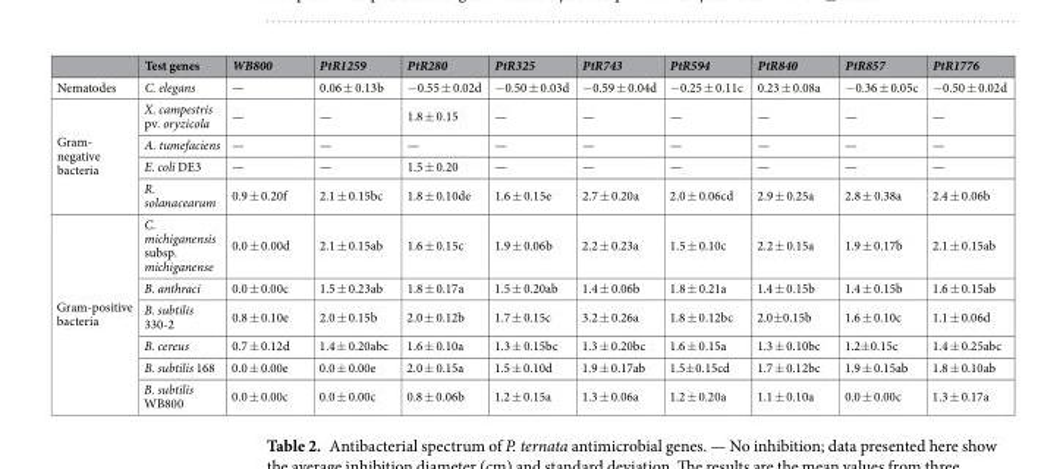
<table><thead><tr><td></td><td>Test genes</td><td>WB800</td><td>PtR1259</td><td>PtR280</td><td>PtR325</td><td>PtR743</td><td>PtR594</td><td>PtR840</td><td>PtR857</td><td>PtR1776</td></tr></thead><tbody><tr><td>Nematodes</td><td>C. elegans</td><td>—</td><td>0.06 ± 0.13b</td><td>−0.55 ± 0.02d</td><td>−0.50 ± 0.03d</td><td>−0.59 ± 0.04d</td><td>−0.25 ± 0.11c</td><td>0.23 ± 0.08a</td><td>−0.36 ± 0.05c</td><td>−0.50 ± 0.02d</td></tr><tr><td rowspan="4">Gram- negative bacteria</td><td>X. campestris pv. oryzicola</td><td>—</td><td>—</td><td>1.8 ± 0.15</td><td>—</td><td>—</td><td>—</td><td>—</td><td>—</td><td>—</td></tr><tr><td>A. tumefaciens</td><td>—</td><td>—</td><td>—</td><td>—</td><td>—</td><td>—</td><td>—</td><td>—</td><td>—</td></tr><tr><td>E. coli DE3</td><td>—</td><td>—</td><td>1.5 ± 0.20</td><td>—</td><td>—</td><td>—</td><td>—</td><td>—</td><td>—</td></tr><tr><td>R. solanacearum</td><td>0.9 ± 0.20f</td><td>2.1 ± 0.15bc</td><td>1.8 ± 0.10de</td><td>1.6 ± 0.15e</td><td>2.7 ± 0.20a</td><td>2.0 ± 0.06cd</td><td>2.9 ± 0.25a</td><td>2.8 ± 0.38a</td><td>2.4 ± 0.06b</td></tr><tr><td rowspan="6">Gram-positive bacteria</td><td>C. michiganensis subsp. michiganense</td><td>0.0 ± 0.00d</td><td>2.1 ± 0.15ab</td><td>1.6 ± 0.15c</td><td>1.9 ± 0.06b</td><td>2.2 ± 0.23a</td><td>1.5 ± 0.10c</td><td>2.2 ± 0.15a</td><td>1.9 ± 0.17b</td><td>2.1 ± 0.15ab</td></tr><tr><td>B. anthraci</td><td>0.0 ± 0.00c</td><td>1.5 ± 0.23ab</td><td>1.8 ± 0.17a</td><td>1.5 ± 0.20ab</td><td>1.4 ± 0.06b</td><td>1.8 ± 0.21a</td><td>1.4 ± 0.15b</td><td>1.4 ± 0.15b</td><td>1.6 ± 0.15ab</td></tr><tr><td>B. subtilis 330-2</td><td>0.8 ± 0.10e</td><td>2.0 ± 0.15b</td><td>2.0 ± 0.12b</td><td>1.7 ± 0.15c</td><td>3.2 ± 0.26a</td><td>1.8 ± 0.12bc</td><td>2.0±0.15b</td><td>1.6 ± 0.10c</td><td>1.1 ± 0.06d</td></tr><tr><td>B. cereus</td><td>0.7 ± 0.12d</td><td>1.4 ± 0.20abc</td><td>1.6 ± 0.10a</td><td>1.3 ± 0.15bc</td><td>1.3 ± 0.20bc</td><td>1.6 ± 0.15a</td><td>1.3 ± 0.10bc</td><td>1.2±0.15c</td><td>1.4 ± 0.25abc</td></tr><tr><td>B. subtilis 168</td><td>0.0 ± 0.00e</td><td>0.0 ± 0.00e</td><td>2.0 ± 0.15a</td><td>1.5 ± 0.10d</td><td>1.9 ± 0.17ab</td><td>1.5±0.15cd</td><td>1.7 ± 0.12bc</td><td>1.9 ± 0.15ab</td><td>1.8 ± 0.10ab</td></tr><tr><td>B. subtilis WB800</td><td>0.0 ± 0.00c</td><td>0.0 ± 0.00c</td><td>0.8 ± 0.06b</td><td>1.2 ± 0.15a</td><td>1.3 ± 0.06a</td><td>1.2 ± 0.20a</td><td>1.1 ± 0.10a</td><td>0.0 ± 0.00c</td><td>1.3 ± 0.17a</td></tr></tbody></table>